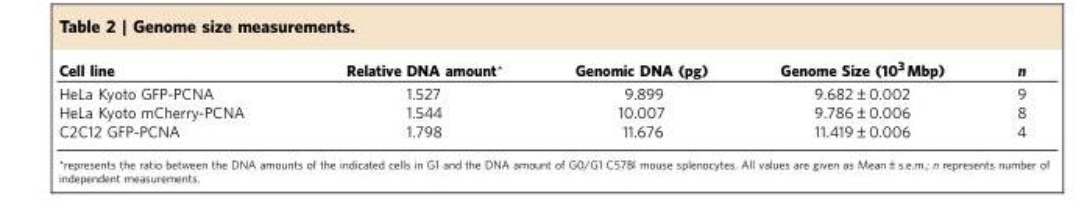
<table><thead><tr><td>Cell line</td><td>Relative DNA amount*</td><td>Genomic DNA (pg)</td><td>Genome Size (10<sup>3</sup> Mbp)</td><td>n</td></tr></thead><tbody><tr><td>HeLa Kyoto GFP-PCNA</td><td>1.527</td><td>9.899</td><td>9.682±0.002</td><td>9</td></tr><tr><td>HeLa Kyoto mCherry-PCNA</td><td>1.544</td><td>10.007</td><td>9.786±0.006</td><td>8</td></tr><tr><td>C2C12 GFP-PCNA</td><td>1.798</td><td>11.676</td><td>11.419±0.006</td><td>4</td></tr></tbody></table>